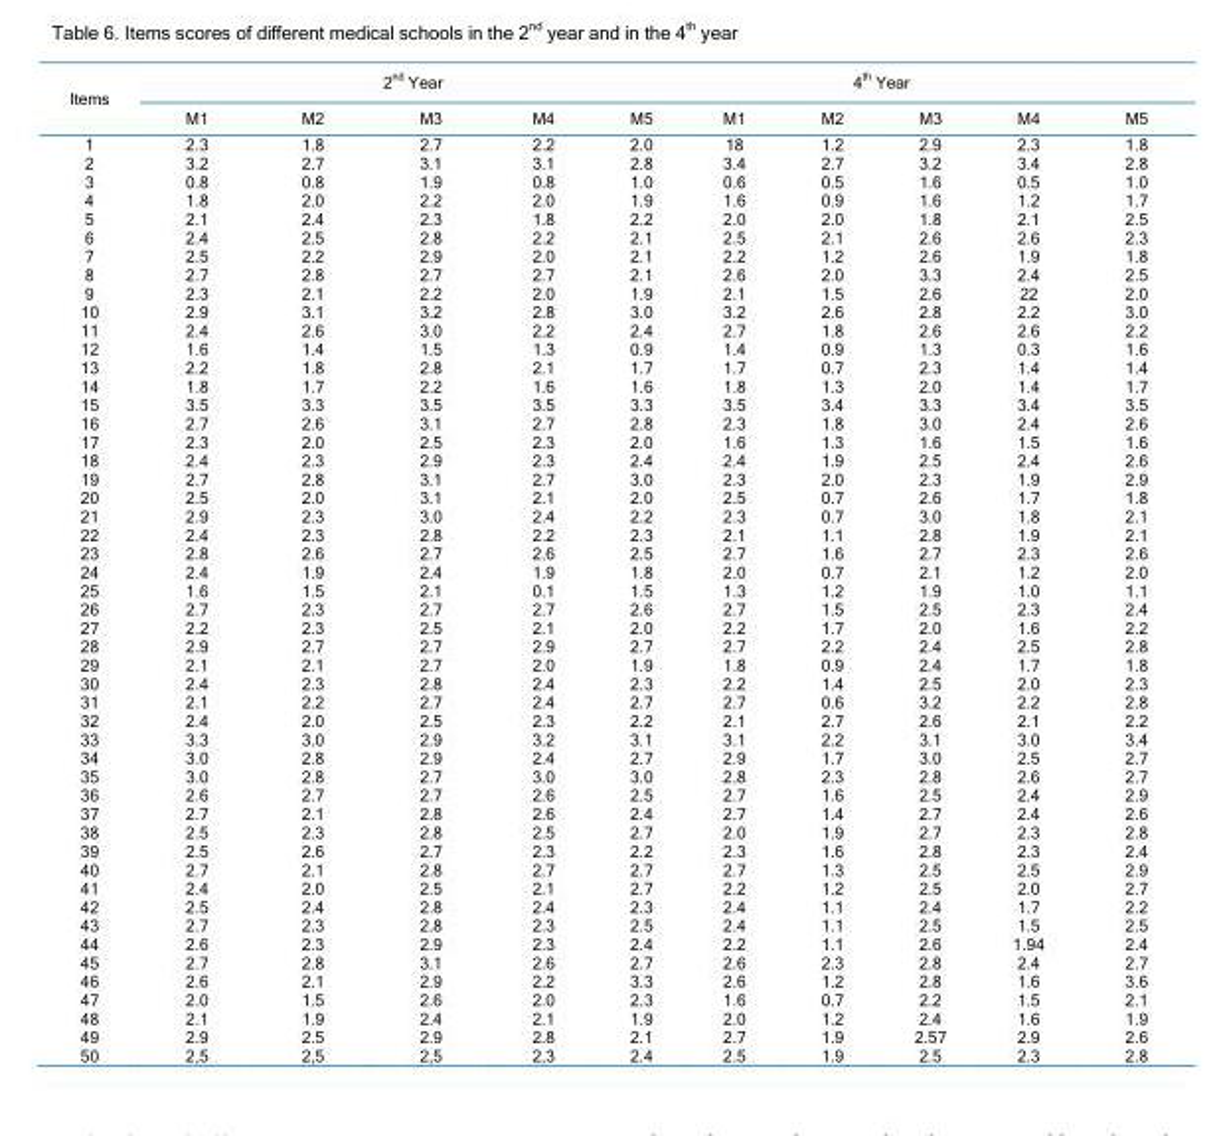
<table><thead><tr><td rowspan="2">Items</td><td colspan="5">2<sup>nd</sup> Year</td><td colspan="4">4<sup>th</sup> Year</td><td rowspan="2">M5</td></tr><tr><td>M1</td><td>M2</td><td>M3</td><td>M4</td><td>M5</td><td>M1</td><td>M2</td><td>M3</td><td>M4</td></tr></thead><tbody><tr><td>1</td><td>2.3</td><td>1.8</td><td>2.7</td><td>2.2</td><td>2.0</td><td>18</td><td>1.2</td><td>2.9</td><td>2.3</td><td>1.8</td></tr><tr><td>2</td><td>3.2</td><td>2.7</td><td>3.1</td><td>3.1</td><td>2.8</td><td>3.4</td><td>2.7</td><td>3.2</td><td>3.4</td><td>2.8</td></tr><tr><td>3</td><td>0.8</td><td>0.8</td><td>1.9</td><td>0.8</td><td>1.0</td><td>0.6</td><td>0.5</td><td>1.6</td><td>0.5</td><td>1.0</td></tr><tr><td>4</td><td>1.8</td><td>2.0</td><td>2.2</td><td>2.0</td><td>1.9</td><td>1.6</td><td>0.9</td><td>1.6</td><td>1.2</td><td>1.7</td></tr><tr><td>5</td><td>2.1</td><td>2.4</td><td>2.3</td><td>1.8</td><td>2.2</td><td>2.0</td><td>2.0</td><td>1.8</td><td>2.1</td><td>2.5</td></tr><tr><td>6</td><td>2.4</td><td>2.5</td><td>2.8</td><td>2.2</td><td>2.1</td><td>2.5</td><td>2.1</td><td>2.6</td><td>2.6</td><td>2.3</td></tr><tr><td>7</td><td>2.5</td><td>2.2</td><td>2.9</td><td>2.0</td><td>2.1</td><td>2.2</td><td>1.2</td><td>2.6</td><td>1.9</td><td>1.8</td></tr><tr><td>8</td><td>2.7</td><td>2.8</td><td>2.7</td><td>2.7</td><td>2.1</td><td>2.6</td><td>2.0</td><td>3.3</td><td>2.4</td><td>2.5</td></tr><tr><td>9</td><td>2.3</td><td>2.1</td><td>2.2</td><td>2.0</td><td>1.9</td><td>2.1</td><td>1.5</td><td>2.6</td><td>22</td><td>2.0</td></tr><tr><td>10</td><td>2.9</td><td>3.1</td><td>3.2</td><td>2.8</td><td>3.0</td><td>3.2</td><td>2.6</td><td>2.8</td><td>2.2</td><td>3.0</td></tr><tr><td>11</td><td>2.4</td><td>2.6</td><td>3.0</td><td>2.2</td><td>2.4</td><td>2.7</td><td>1.8</td><td>2.6</td><td>2.6</td><td>2.2</td></tr><tr><td>12</td><td>1.6</td><td>1.4</td><td>1.5</td><td>1.3</td><td>0.9</td><td>1.4</td><td>0.9</td><td>1.3</td><td>0.3</td><td>1.6</td></tr><tr><td>13</td><td>2.2</td><td>1.8</td><td>2.8</td><td>2.1</td><td>1.7</td><td>1.7</td><td>0.7</td><td>2.3</td><td>1.4</td><td>1.4</td></tr><tr><td>14</td><td>1.8</td><td>1.7</td><td>2.2</td><td>1.6</td><td>1.6</td><td>1.8</td><td>1.3</td><td>2.0</td><td>1.4</td><td>1.7</td></tr><tr><td>15</td><td>3.5</td><td>3.3</td><td>3.5</td><td>3.5</td><td>3.3</td><td>3.5</td><td>3.4</td><td>3.3</td><td>3.4</td><td>3.5</td></tr><tr><td>16</td><td>2.7</td><td>2.6</td><td>3.1</td><td>2.7</td><td>2.8</td><td>2.3</td><td>1.8</td><td>3.0</td><td>2.4</td><td>2.6</td></tr><tr><td>17</td><td>2.3</td><td>2.0</td><td>2.5</td><td>2.3</td><td>2.0</td><td>1.6</td><td>1.3</td><td>1.6</td><td>1.5</td><td>1.6</td></tr><tr><td>18</td><td>2.4</td><td>2.3</td><td>2.9</td><td>2.3</td><td>2.4</td><td>2.4</td><td>1.9</td><td>2.5</td><td>2.4</td><td>2.6</td></tr><tr><td>19</td><td>2.7</td><td>2.8</td><td>3.1</td><td>2.7</td><td>3.0</td><td>2.3</td><td>2.0</td><td>2.3</td><td>1.9</td><td>2.9</td></tr><tr><td>20</td><td>2.5</td><td>2.0</td><td>3.1</td><td>2.1</td><td>2.0</td><td>2.5</td><td>0.7</td><td>2.6</td><td>1.7</td><td>1.8</td></tr><tr><td>21</td><td>2.9</td><td>2.3</td><td>3.0</td><td>2.4</td><td>2.2</td><td>2.3</td><td>0.7</td><td>3.0</td><td>1.8</td><td>2.1</td></tr><tr><td>22</td><td>2.4</td><td>2.3</td><td>2.8</td><td>2.2</td><td>2.3</td><td>2.1</td><td>1.1</td><td>2.8</td><td>1.9</td><td>2.1</td></tr><tr><td>23</td><td>2.8</td><td>2.6</td><td>2.7</td><td>2.6</td><td>2.5</td><td>2.7</td><td>1.6</td><td>2.7</td><td>2.3</td><td>2.6</td></tr><tr><td>24</td><td>2.4</td><td>1.9</td><td>2.4</td><td>1.9</td><td>1.8</td><td>2.0</td><td>0.7</td><td>2.1</td><td>1.2</td><td>2.0</td></tr><tr><td>25</td><td>1.6</td><td>1.5</td><td>2.1</td><td>0.1</td><td>1.5</td><td>1.3</td><td>1.2</td><td>1.9</td><td>1.0</td><td>1.1</td></tr><tr><td>26</td><td>2.7</td><td>2.3</td><td>2.7</td><td>2.7</td><td>2.6</td><td>2.7</td><td>1.5</td><td>2.5</td><td>2.3</td><td>2.4</td></tr><tr><td>27</td><td>2.2</td><td>2.3</td><td>2.5</td><td>2.1</td><td>2.0</td><td>2.2</td><td>1.7</td><td>2.0</td><td>1.6</td><td>2.2</td></tr><tr><td>28</td><td>2.9</td><td>2.7</td><td>2.7</td><td>2.9</td><td>2.7</td><td>2.7</td><td>2.2</td><td>2.4</td><td>2.5</td><td>2.8</td></tr><tr><td>29</td><td>2.1</td><td>2.1</td><td>2.7</td><td>2.0</td><td>1.9</td><td>1.8</td><td>0.9</td><td>2.4</td><td>1.7</td><td>1.8</td></tr><tr><td>30</td><td>2.4</td><td>2.3</td><td>2.8</td><td>2.4</td><td>2.3</td><td>2.2</td><td>1.4</td><td>2.5</td><td>2.0</td><td>2.3</td></tr><tr><td>31</td><td>2.1</td><td>2.2</td><td>2.7</td><td>2.4</td><td>2.7</td><td>2.7</td><td>0.6</td><td>3.2</td><td>2.2</td><td>2.8</td></tr><tr><td>32</td><td>2.4</td><td>2.0</td><td>2.5</td><td>2.3</td><td>2.2</td><td>2.1</td><td>2.7</td><td>2.6</td><td>2.1</td><td>2.2</td></tr><tr><td>33</td><td>3.3</td><td>3.0</td><td>2.9</td><td>3.2</td><td>3.1</td><td>3.1</td><td>2.2</td><td>3.1</td><td>3.0</td><td>3.4</td></tr><tr><td>34</td><td>3.0</td><td>2.8</td><td>2.9</td><td>2.4</td><td>2.7</td><td>2.9</td><td>1.7</td><td>3.0</td><td>2.5</td><td>2.7</td></tr><tr><td>35</td><td>3.0</td><td>2.8</td><td>2.7</td><td>3.0</td><td>3.0</td><td>2.8</td><td>2.3</td><td>2.8</td><td>2.6</td><td>2.7</td></tr><tr><td>36</td><td>2.6</td><td>2.7</td><td>2.7</td><td>2.6</td><td>2.5</td><td>2.7</td><td>1.6</td><td>2.5</td><td>2.4</td><td>2.9</td></tr><tr><td>37</td><td>2.7</td><td>2.1</td><td>2.8</td><td>2.6</td><td>2.4</td><td>2.7</td><td>1.4</td><td>2.7</td><td>2.4</td><td>2.6</td></tr><tr><td>38</td><td>2.5</td><td>2.3</td><td>2.8</td><td>2.5</td><td>2.7</td><td>2.0</td><td>1.9</td><td>2.7</td><td>2.3</td><td>2.8</td></tr><tr><td>39</td><td>2.5</td><td>2.6</td><td>2.7</td><td>2.3</td><td>2.2</td><td>2.3</td><td>1.6</td><td>2.8</td><td>2.3</td><td>2.4</td></tr><tr><td>40</td><td>2.7</td><td>2.1</td><td>2.8</td><td>2.7</td><td>2.7</td><td>2.7</td><td>1.3</td><td>2.5</td><td>2.5</td><td>2.9</td></tr><tr><td>41</td><td>2.4</td><td>2.0</td><td>2.5</td><td>2.1</td><td>2.7</td><td>2.2</td><td>1.2</td><td>2.5</td><td>2.0</td><td>2.7</td></tr><tr><td>42</td><td>2.5</td><td>2.4</td><td>2.8</td><td>2.4</td><td>2.3</td><td>2.4</td><td>1.1</td><td>2.4</td><td>1.7</td><td>2.2</td></tr><tr><td>43</td><td>2.7</td><td>2.3</td><td>2.8</td><td>2.3</td><td>2.5</td><td>2.4</td><td>1.1</td><td>2.5</td><td>1.5</td><td>2.5</td></tr><tr><td>44</td><td>2.6</td><td>2.3</td><td>2.9</td><td>2.3</td><td>2.4</td><td>2.2</td><td>1.1</td><td>2.6</td><td>1.94</td><td>2.4</td></tr><tr><td>45</td><td>2.7</td><td>2.8</td><td>3.1</td><td>2.6</td><td>2.7</td><td>2.6</td><td>2.3</td><td>2.8</td><td>2.4</td><td>2.7</td></tr><tr><td>46</td><td>2.6</td><td>2.1</td><td>2.9</td><td>2.2</td><td>3.3</td><td>2.6</td><td>1.2</td><td>2.8</td><td>1.6</td><td>3.6</td></tr><tr><td>47</td><td>2.0</td><td>1.5</td><td>2.6</td><td>2.0</td><td>2.3</td><td>1.6</td><td>0.7</td><td>2.2</td><td>1.5</td><td>2.1</td></tr><tr><td>48</td><td>2.1</td><td>1.9</td><td>2.4</td><td>2.1</td><td>1.9</td><td>2.0</td><td>1.2</td><td>2.4</td><td>1.6</td><td>1.9</td></tr><tr><td>49</td><td>2.9</td><td>2.5</td><td>2.9</td><td>2.8</td><td>2.1</td><td>2.7</td><td>1.9</td><td>2.57</td><td>2.9</td><td>2.6</td></tr><tr><td>50</td><td>2,5</td><td>2,5</td><td>2,5</td><td>2,3</td><td>2.4</td><td>2.5</td><td>1.9</td><td>2.5</td><td>2.3</td><td>2.8</td></tr></tbody></table>